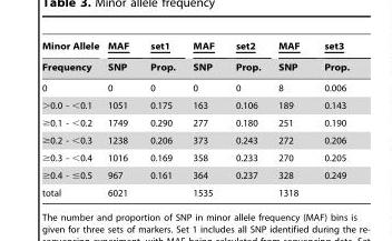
<table><thead><tr><td rowspan="2">Minor Allele Frequency</td><td rowspan="2">MAF SNP</td><td rowspan="2">set1 Prop.</td><td rowspan="2">MAF SNP</td><td rowspan="2">set2 Prop.</td><td rowspan="2">MAF SNP</td><td rowspan="2">set3 Prop.</td></tr><tr></tr></thead><tbody><tr><td>0</td><td>0</td><td>0</td><td>0</td><td>0</td><td>8</td><td>0.006</td></tr><tr><td>&gt;0.0 - &lt;0.1</td><td>1051</td><td>0.175</td><td>163</td><td>0.106</td><td>189</td><td>0.143</td></tr><tr><td>≥0.1 - &lt;0.2</td><td>1749</td><td>0.290</td><td>277</td><td>0.180</td><td>251</td><td>0.190</td></tr><tr><td>≥0.2 - &lt;0.3</td><td>1238</td><td>0.206</td><td>373</td><td>0.243</td><td>272</td><td>0.206</td></tr><tr><td>≥0.3 - &lt;0.4</td><td>1016</td><td>0.169</td><td>358</td><td>0.233</td><td>270</td><td>0.205</td></tr><tr><td>≥0.4 - ≤0.5</td><td>967</td><td>0.161</td><td>364</td><td>0.237</td><td>328</td><td>0.249</td></tr><tr><td>total</td><td>6021</td><td></td><td>1535</td><td></td><td>1318</td><td></td></tr></tbody></table>